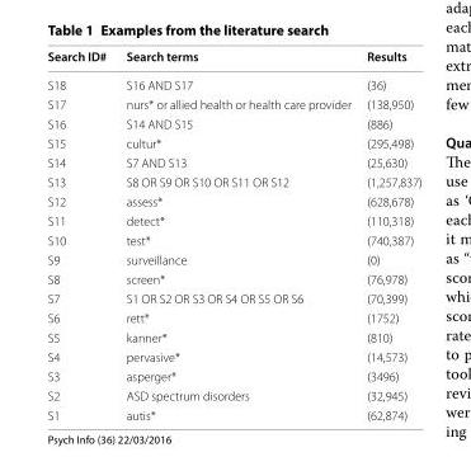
<table><thead><tr><td>Search ID#</td><td>Search terms</td><td>Results</td></tr></thead><tbody><tr><td>S18</td><td>S16 AND S17</td><td>(36)</td></tr><tr><td>S17</td><td>nurs* or allied health or health care provider</td><td>(138,950)</td></tr><tr><td>S16</td><td>S14 AND S15</td><td>(886)</td></tr><tr><td>S15</td><td>cultur*</td><td>(295,498)</td></tr><tr><td>S14</td><td>S7 AND S13</td><td>(25,630)</td></tr><tr><td>S13</td><td>S8 OR S9 OR S10 OR S11 OR S12</td><td>(1,257,837)</td></tr><tr><td>S12</td><td>assess*</td><td>(628,678)</td></tr><tr><td>S11</td><td>detect*</td><td>(110,318)</td></tr><tr><td>S10</td><td>test*</td><td>(740,387)</td></tr><tr><td>S9</td><td>surveillance</td><td>(0)</td></tr><tr><td>S8</td><td>screen*</td><td>(76,978)</td></tr><tr><td>S7</td><td>S1 OR S2 OR S3 OR S4 OR S5 OR S6</td><td>(70,399)</td></tr><tr><td>S6</td><td>rett*</td><td>(1752)</td></tr><tr><td>S5</td><td>kanner*</td><td>(810)</td></tr><tr><td>S4</td><td>pervasive*</td><td>(14,573)</td></tr><tr><td>S3</td><td>asperger*</td><td>(3496)</td></tr><tr><td>S2</td><td>ASD spectrum disorders</td><td>(32,945)</td></tr><tr><td>S1</td><td>autis*</td><td>(62,874)</td></tr></tbody></table>